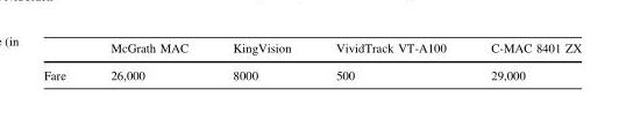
<table><thead><tr><td></td><td>McGrath MAC</td><td>KingVision</td><td>VividTrack VT-A100</td><td>C-MAC 8401 ZX</td></tr></thead><tbody><tr><td>Fare</td><td>26,000</td><td>8000</td><td>500</td><td>29,000</td></tr></tbody></table>